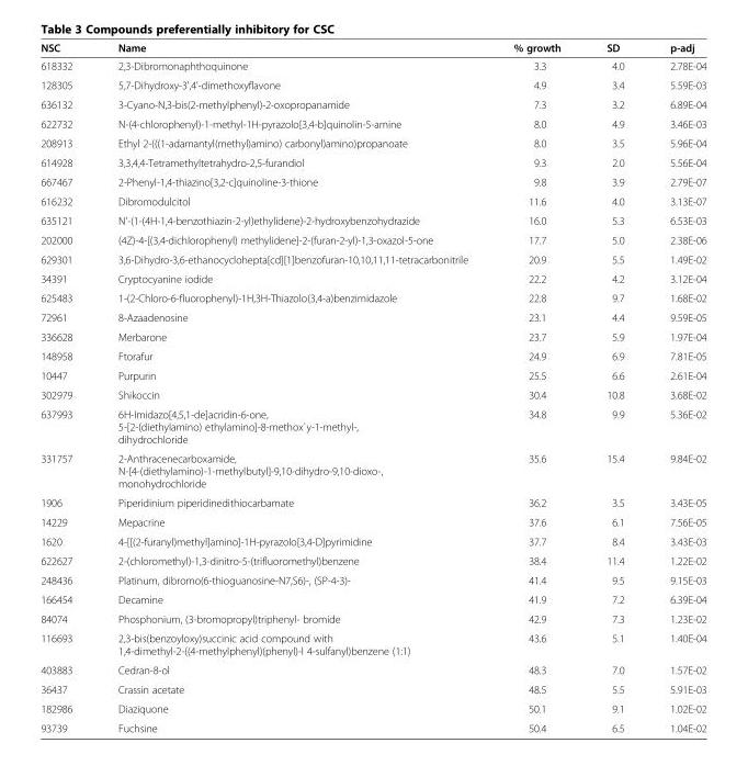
<table><thead><tr><td>NSC</td><td>Name</td><td>% growth</td><td>SD</td><td>p-adj</td></tr></thead><tbody><tr><td>618332</td><td>2,3-Dibromonaphthoquinone</td><td>3.3</td><td>4.0</td><td>2.78E-04</td></tr><tr><td>128305</td><td>5,7-Dihydroxy-3&#x27;,4&#x27;-dimethoxyflavone</td><td>4.9</td><td>3.4</td><td>5.59E-03</td></tr><tr><td>636132</td><td>3-Cyano-N,3-bis(2-methylphenyl)-2-oxopropanamide</td><td>7.3</td><td>3.2</td><td>6.89E-04</td></tr><tr><td>622732</td><td>N-(4-chlorophenyl)-1-methyl-1H-pyrazolo[3,4-b]quinolin-5-amine</td><td>8.0</td><td>4.9</td><td>3.46E-03</td></tr><tr><td>208913</td><td>Ethyl 2-(((1-adamantyl(methyl)amino) carbonyl)amino)propanoate</td><td>8.0</td><td>3.5</td><td>5.96E-04</td></tr><tr><td>614928</td><td>3,3,4,4-Tetramethyltetrahydro-2,5-furandiol</td><td>9.3</td><td>2.0</td><td>5.56E-04</td></tr><tr><td>667467</td><td>2-Phenyl-1,4-thiazino[3,2-c]quinoline-3-thione</td><td>9.8</td><td>3.9</td><td>2.79E-07</td></tr><tr><td>616232</td><td>Dibromodulcitol</td><td>11.6</td><td>4.0</td><td>3.13E-07</td></tr><tr><td>635121</td><td>N&#x27;-(1-(4H-1,4-benzothiazin-2-yl)ethylidene)-2-hydroxybenzohydrazide</td><td>16.0</td><td>5.3</td><td>6.53E-03</td></tr><tr><td>202000</td><td>(4Z)-4-[(3,4-dichlorophenyl) methylidene]-2-(furan-2-yl)-1,3-oxazol-5-one</td><td>17.7</td><td>5.0</td><td>2.38E-06</td></tr><tr><td>629301</td><td>3,6-Dihydro-3,6-ethanocyclohepta[cd][1]benzofuran-10,10,11,11-tetracarbonitrile</td><td>20.9</td><td>5.5</td><td>1.49E-02</td></tr><tr><td>34391</td><td>Cryptocyanine iodide</td><td>22.2</td><td>4.2</td><td>3.12E-04</td></tr><tr><td>625483</td><td>1-(2-Chloro-6-fluorophenyl)-1H,3H-Thiazolo(3,4-a)benzimidazole</td><td>22.8</td><td>9.7</td><td>1.68E-02</td></tr><tr><td>72961</td><td>8-Azaadenosine</td><td>23.1</td><td>4.4</td><td>9.59E-05</td></tr><tr><td>336628</td><td>Merbarone</td><td>23.7</td><td>5.9</td><td>1.97E-04</td></tr><tr><td>148958</td><td>Ftorafur</td><td>24.9</td><td>6.9</td><td>7.81E-05</td></tr><tr><td>10447</td><td>Purpurin</td><td>25.5</td><td>6.6</td><td>2.61E-04</td></tr><tr><td>302979</td><td>Shikoccin</td><td>30.4</td><td>10.8</td><td>3.68E-02</td></tr><tr><td>637993</td><td>6H-Imidazo[4,5,1-de]acridin-6-one, 5-[2-(diethylamino) ethylamino]-8-methox`y-1-methyl-, dihydrochloride</td><td>34.8</td><td>9.9</td><td>5.36E-02</td></tr><tr><td>331757</td><td>2-Anthracenecarboxamide, N-[4-(diethylamino)-1-methylbutyl]-9,10-dihydro-9,10-dioxo-, monohydrochloride</td><td>35.6</td><td>15.4</td><td>9.84E-02</td></tr><tr><td>1906</td><td>Piperidinium piperidinedithiocarbamate</td><td>36.2</td><td>3.5</td><td>3.43E-05</td></tr><tr><td>14229</td><td>Mepacrine</td><td>37.6</td><td>6.1</td><td>7.56E-05</td></tr><tr><td>1620</td><td>4-[[(2-furanyl)methyl]amino]-1H-pyrazolo[3,4-D]pyrimidine</td><td>37.7</td><td>8.4</td><td>3.43E-03</td></tr><tr><td>622627</td><td>2-(chloromethyl)-1,3-dinitro-5-(trifluoromethyl)benzene</td><td>38.4</td><td>11.4</td><td>1.22E-02</td></tr><tr><td>248436</td><td>Platinum, dibromo(6-thioguanosine-N7,S6)-, (SP-4-3)-</td><td>41.4</td><td>9.5</td><td>9.15E-03</td></tr><tr><td>166454</td><td>Decamine</td><td>41.9</td><td>7.2</td><td>6.39E-04</td></tr><tr><td>84074</td><td>Phosphonium, (3-bromopropyl)triphenyl- bromide</td><td>42.9</td><td>7.3</td><td>1.23E-02</td></tr><tr><td>116693</td><td>2,3-bis(benzoyloxy)succinic acid compound with 1,4-dimethyl-2-((4-methylphenyl)(phenyl)-l 4-sulfanyl)benzene (1:1)</td><td>43.6</td><td>5.1</td><td>1.40E-04</td></tr><tr><td>403883</td><td>Cedran-8-ol</td><td>48.3</td><td>7.0</td><td>1.57E-02</td></tr><tr><td>36437</td><td>Crassin acetate</td><td>48.5</td><td>5.5</td><td>5.91E-03</td></tr><tr><td>182986</td><td>Diaziquone</td><td>50.1</td><td>9.1</td><td>1.02E-02</td></tr><tr><td>93739</td><td>Fuchsine</td><td>50.4</td><td>6.5</td><td>1.04E-02</td></tr></tbody></table>